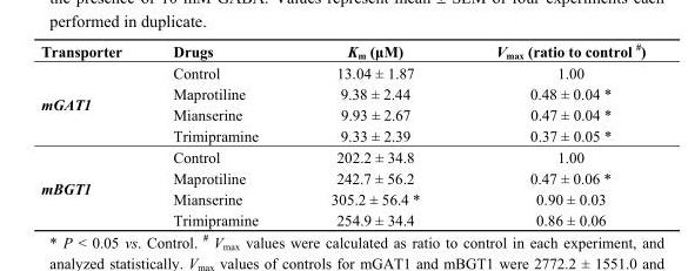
<table><thead><tr><td>Transporter</td><td>Drugs</td><td>K<sub>m</sub> (μM)</td><td>V<sub>max</sub> (ratio to control #)</td></tr></thead><tbody><tr><td rowspan="4">mGAT1</td><td>Control</td><td>13.04 ± 1.87</td><td>1.00</td></tr><tr><td>Maprotiline</td><td>9.38 ± 2.44</td><td>0.48 ± 0.04 *</td></tr><tr><td>Mianserine</td><td>9.93 ± 2.67</td><td>0.47 ± 0.04 *</td></tr><tr><td>Trimipramine</td><td>9.33 ± 2.39</td><td>0.37 ± 0.05 *</td></tr><tr><td rowspan="4">mBGT1</td><td>Control</td><td>202.2 ± 34.8</td><td>1.00</td></tr><tr><td>Maprotiline</td><td>242.7 ± 56.2</td><td>0.47 ± 0.06 *</td></tr><tr><td>Mianserine</td><td>305.2 ± 56.4 *</td><td>0.90 ± 0.03</td></tr><tr><td>Trimipramine</td><td>254.9 ± 34.4</td><td>0.86 ± 0.06</td></tr></tbody></table>